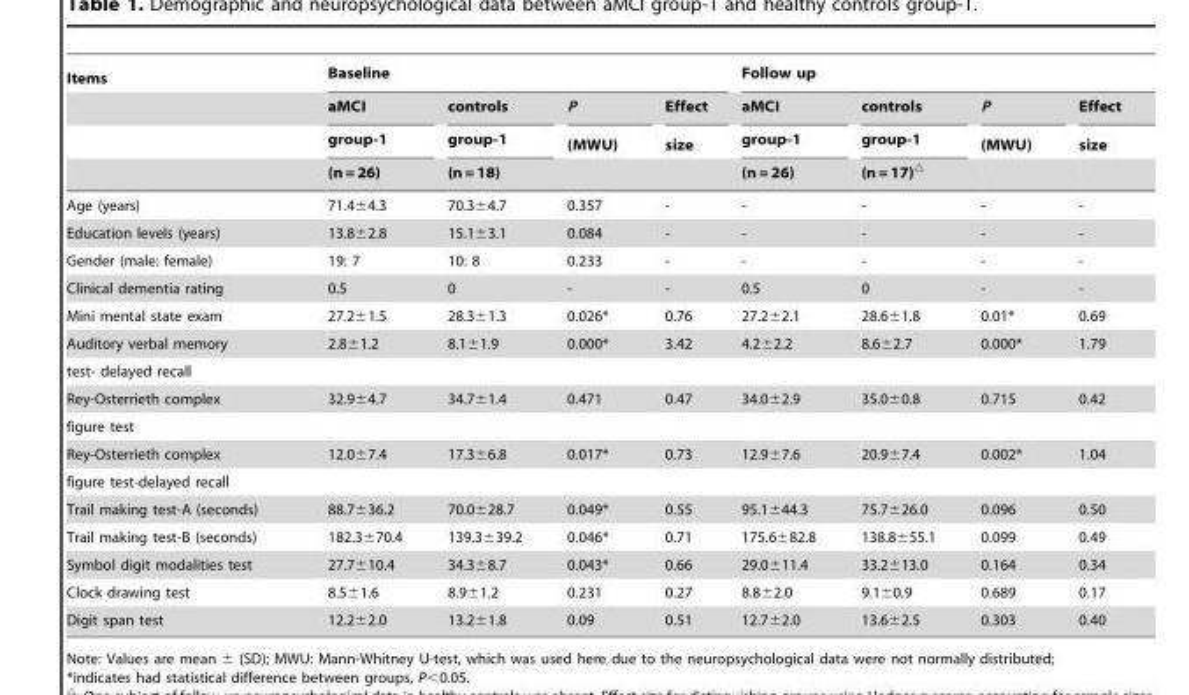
<table><thead><tr><td rowspan="4">Items</td><td colspan="4">Baseline</td><td colspan="4">Follow up</td></tr><tr><td rowspan="3">aMCI group-1 (n = 26)</td><td rowspan="3">controls group-1 (n = 18)</td><td rowspan="3">P (MWU)</td><td rowspan="3">Effect size</td><td rowspan="3">aMCI group-1 (n = 26)</td><td rowspan="3">controls group-1 (n = 17)△</td><td rowspan="3">P (MWU)</td><td rowspan="3">Effect size</td></tr><tr></tr><tr></tr></thead><tbody><tr><td>Age (years)</td><td>71.4±4.3</td><td>70.3±4.7</td><td>0.357</td><td>-</td><td>-</td><td>-</td><td>-</td><td>-</td></tr><tr><td>Education levels (years)</td><td>13.8±2.8</td><td>15.1±3.1</td><td>0.084</td><td>-</td><td>-</td><td>-</td><td>-</td><td>-</td></tr><tr><td>Gender (male: female)</td><td>19: 7</td><td>10: 8</td><td>0.233</td><td>-</td><td>-</td><td>-</td><td>-</td><td>-</td></tr><tr><td>Clinical dementia rating</td><td>0.5</td><td>0</td><td>-</td><td>-</td><td>0.5</td><td>0</td><td>-</td><td>-</td></tr><tr><td>Mini mental state exam</td><td>27.2±1.5</td><td>28.3±1.3</td><td>0.026*</td><td>0.76</td><td>27.2±2.1</td><td>28.6±1.8</td><td>0.01*</td><td>0.69</td></tr><tr><td>Auditory verbal memory</td><td>2.8±1.2</td><td>8.1±1.9</td><td>0.000*</td><td>3.42</td><td>4.2±2.2</td><td>8.6±2.7</td><td>0.000*</td><td>1.79</td></tr><tr><td colspan="9">test- delayed recall</td></tr><tr><td>Rey-Osterrieth complex</td><td>32.9±4.7</td><td>34.7±1.4</td><td>0.471</td><td>0.47</td><td>34.0±2.9</td><td>35.0±0.8</td><td>0.715</td><td>0.42</td></tr><tr><td colspan="9">figure test</td></tr><tr><td>Rey-Osterrieth complex</td><td>12.0±7.4</td><td>17.3±6.8</td><td>0.017*</td><td>0.73</td><td>12.9±7.6</td><td>20.9±7.4</td><td>0.002*</td><td>1.04</td></tr><tr><td colspan="9">figure test-delayed recall</td></tr><tr><td>Trail making test-A (seconds)</td><td>88.7±36.2</td><td>70.0±28.7</td><td>0.049*</td><td>0.55</td><td>95.1±44.3</td><td>75.7±26.0</td><td>0.096</td><td>0.50</td></tr><tr><td>Trail making test-B (seconds)</td><td>182.3±70.4</td><td>139.3±39.2</td><td>0.046*</td><td>0.71</td><td>175.6±82.8</td><td>138.8±55.1</td><td>0.099</td><td>0.49</td></tr><tr><td>Symbol digit modalities test</td><td>27.7±10.4</td><td>34.3±8.7</td><td>0.043*</td><td>0.66</td><td>29.0±11.4</td><td>33.2±13.0</td><td>0.164</td><td>0.34</td></tr><tr><td>Clock drawing test</td><td>8.5±1.6</td><td>8.9±1.2</td><td>0.231</td><td>0.27</td><td>8.8±2.0</td><td>9.1±0.9</td><td>0.689</td><td>0.17</td></tr><tr><td>Digit span test</td><td>12.2±2.0</td><td>13.2±1.8</td><td>0.09</td><td>0.51</td><td>12.7±2.0</td><td>13.6±2.5</td><td>0.303</td><td>0.40</td></tr></tbody></table>